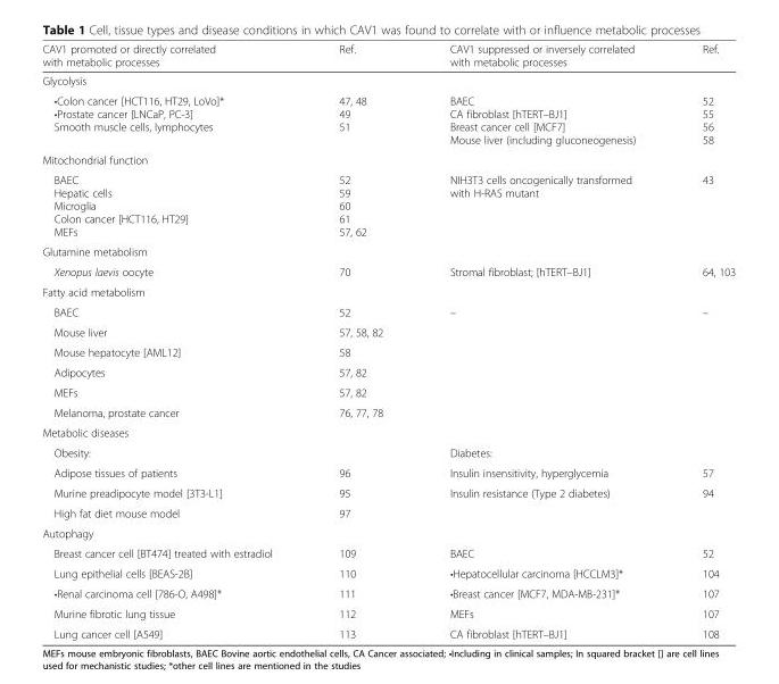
<table><thead><tr><td>CAV1 promoted or directly correlated with metabolic processes</td><td>Ref.</td><td>CAV1 suppressed or inversely correlated with metabolic processes</td><td>Ref.</td></tr></thead><tbody><tr><td colspan="4">Glycolysis</td></tr><tr><td>•Colon cancer [HCT116, HT29, LoVo]* •Prostate cancer [LNCaP, PC-3] Smooth muscle cells, lymphocytes</td><td>47, 48 49 51</td><td>BAEC CA fibroblast [hTERT–BJ1] Breast cancer cell [MCF7] Mouse liver (including gluconeogenesis)</td><td>52 55 56 58</td></tr><tr><td colspan="4">Mitochondrial function</td></tr><tr><td>BAEC Hepatic cells Microglia Colon cancer [HCT116, HT29] MEFs</td><td>52 59 60 61 57, 62</td><td>NIH3T3 cells oncogenically transformed with H-RAS mutant</td><td>43</td></tr><tr><td colspan="4">Glutamine metabolism</td></tr><tr><td>Xenopus laevis oocyte</td><td>70</td><td>Stromal fibroblast; [hTERT–BJ1]</td><td>64, 103</td></tr><tr><td colspan="4">Fatty acid metabolism</td></tr><tr><td>BAEC</td><td>52</td><td>–</td><td>–</td></tr><tr><td>Mouse liver</td><td>57, 58, 82</td><td></td><td></td></tr><tr><td>Mouse hepatocyte [AML12]</td><td>58</td><td></td><td></td></tr><tr><td>Adipocytes</td><td>57, 82</td><td></td><td></td></tr><tr><td>MEFs</td><td>57, 82</td><td></td><td></td></tr><tr><td>Melanoma, prostate cancer</td><td>76, 77, 78</td><td></td><td></td></tr><tr><td colspan="4">Metabolic diseases</td></tr><tr><td>Obesity:</td><td></td><td>Diabetes:</td><td></td></tr><tr><td>Adipose tissues of patients</td><td>96</td><td>Insulin insensitivity, hyperglycemia</td><td>57</td></tr><tr><td>Murine preadipocyte model [3T3-L1]</td><td>95</td><td>Insulin resistance (Type 2 diabetes)</td><td>94</td></tr><tr><td>High fat diet mouse model</td><td>97</td><td></td><td></td></tr><tr><td colspan="4">Autophagy</td></tr><tr><td>Breast cancer cell [BT474] treated with estradiol</td><td>109</td><td>BAEC</td><td>52</td></tr><tr><td>Lung epithelial cells [BEAS-2B]</td><td>110</td><td>•Hepatocellular carcinoma [HCCLM3]*</td><td>104</td></tr><tr><td>•Renal carcinoma cell [786-O, A498]*</td><td>111</td><td>•Breast cancer [MCF7, MDA-MB-231]*</td><td>107</td></tr><tr><td>Murine fibrotic lung tissue</td><td>112</td><td>MEFs</td><td>107</td></tr><tr><td>Lung cancer cell [A549]</td><td>113</td><td>CA fibroblast [hTERT–BJ1]</td><td>108</td></tr></tbody></table>